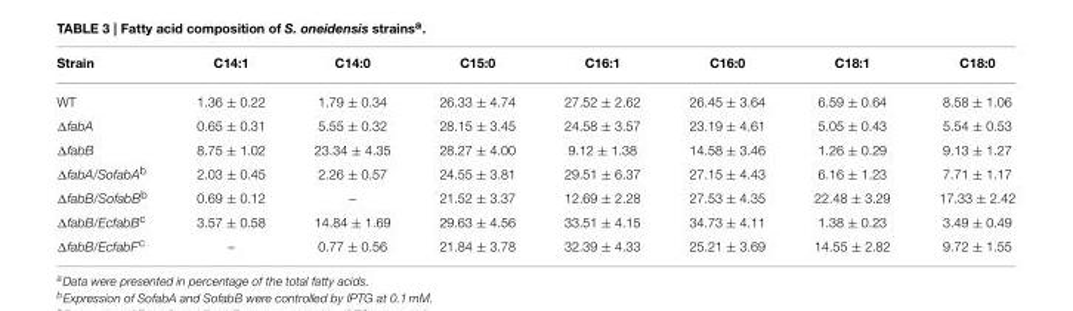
<table><thead><tr><td>Strain</td><td>C14:1</td><td>C14:0</td><td>C15:0</td><td>C16:1</td><td>C16:0</td><td>C18:1</td><td>C18:0</td></tr></thead><tbody><tr><td>WT</td><td>1.36 ± 0.22</td><td>1.79 ± 0.34</td><td>26.33 ± 4.74</td><td>27.52 ± 2.62</td><td>26.45 ± 3.64</td><td>6.59 ± 0.64</td><td>8.58 ± 1.06</td></tr><tr><td>ΔfabA</td><td>0.65 ± 0.31</td><td>5.55 ± 0.32</td><td>28.15 ± 3.45</td><td>24.58 ± 3.57</td><td>23.19 ± 4.61</td><td>5.05 ± 0.43</td><td>5.54 ± 0.53</td></tr><tr><td>ΔfabB</td><td>8.75 ± 1.02</td><td>23.34 ± 4.35</td><td>28.27 ± 4.00</td><td>9.12 ± 1.38</td><td>14.58 ± 3.46</td><td>1.26 ± 0.29</td><td>9.13 ± 1.27</td></tr><tr><td>ΔfabA/SofabA<sup>b</sup></td><td>2.03 ± 0.45</td><td>2.26 ± 0.57</td><td>24.55 ± 3.81</td><td>29.51 ± 6.37</td><td>27.15 ± 4.43</td><td>6.16 ± 1.23</td><td>7.71 ± 1.17</td></tr><tr><td>ΔfabB/SofabB<sup>b</sup></td><td>0.69 ± 0.12</td><td>–</td><td>21.52 ± 3.37</td><td>12.69 ± 2.28</td><td>27.53 ± 4.35</td><td>22.48 ± 3.29</td><td>17.33 ± 2.42</td></tr><tr><td>ΔfabB/EcfabB<sup>c</sup></td><td>3.57 ± 0.58</td><td>14.84 ± 1.69</td><td>29.63 ± 4.56</td><td>33.51 ± 4.15</td><td>34.73 ± 4.11</td><td>1.38 ± 0.23</td><td>3.49 ± 0.49</td></tr><tr><td>ΔfabB/EcfabF<sup>c</sup></td><td>–</td><td>0.77 ± 0.56</td><td>21.84 ± 3.78</td><td>32.39 ± 4.33</td><td>25.21 ± 3.69</td><td>14.55 ± 2.82</td><td>9.72 ± 1.55</td></tr></tbody></table>